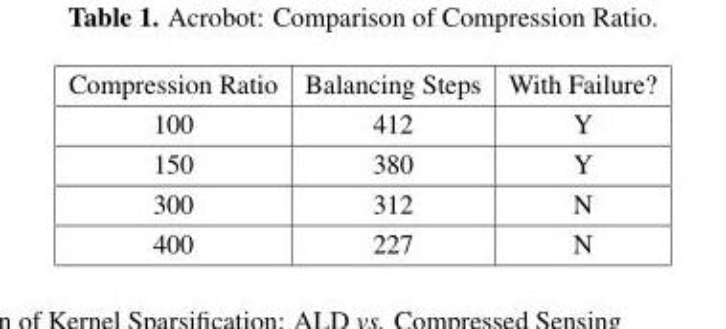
<table><thead><tr><td>Compression Ratio</td><td>Balancing Steps</td><td>With Failure?</td></tr></thead><tbody><tr><td>100</td><td>412</td><td>Y</td></tr><tr><td>150</td><td>380</td><td>Y</td></tr><tr><td>300</td><td>312</td><td>N</td></tr><tr><td>400</td><td>227</td><td>N</td></tr></tbody></table>